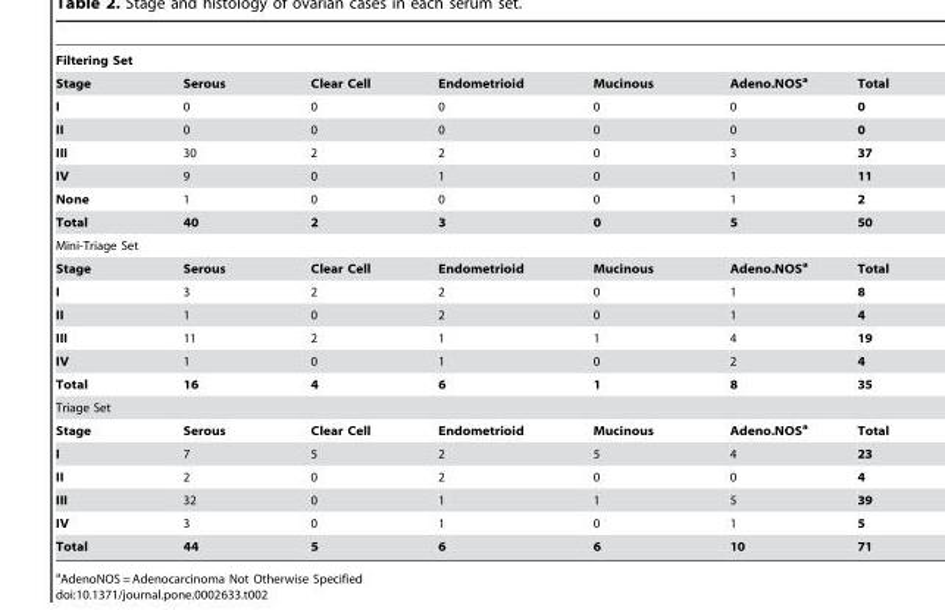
<table><tbody><tr><td colspan="7">Filtering Set</td></tr><tr><td>Stage</td><td>Serous</td><td>Clear Cell</td><td>Endometrioid</td><td>Mucinous</td><td>Adeno.NOSa</td><td>Total</td></tr><tr><td>I</td><td>0</td><td>0</td><td>0</td><td>0</td><td>0</td><td>0</td></tr><tr><td>II</td><td>0</td><td>0</td><td>0</td><td>0</td><td>0</td><td>0</td></tr><tr><td>III</td><td>30</td><td>2</td><td>2</td><td>0</td><td>3</td><td>37</td></tr><tr><td>IV</td><td>9</td><td>0</td><td>1</td><td>0</td><td>1</td><td>11</td></tr><tr><td>None</td><td>1</td><td>0</td><td>0</td><td>0</td><td>1</td><td>2</td></tr><tr><td>Total</td><td>40</td><td>2</td><td>3</td><td>0</td><td>5</td><td>50</td></tr><tr><td colspan="7">Mini-Triage Set</td></tr><tr><td>Stage</td><td>Serous</td><td>Clear Cell</td><td>Endometrioid</td><td>Mucinous</td><td>Adeno.NOSa</td><td>Total</td></tr><tr><td>I</td><td>3</td><td>2</td><td>2</td><td>0</td><td>1</td><td>8</td></tr><tr><td>II</td><td>1</td><td>0</td><td>2</td><td>0</td><td>1</td><td>4</td></tr><tr><td>III</td><td>11</td><td>2</td><td>1</td><td>1</td><td>4</td><td>19</td></tr><tr><td>IV</td><td>1</td><td>0</td><td>1</td><td>0</td><td>2</td><td>4</td></tr><tr><td>Total</td><td>16</td><td>4</td><td>6</td><td>1</td><td>8</td><td>35</td></tr><tr><td colspan="7">Triage Set</td></tr><tr><td>Stage</td><td>Serous</td><td>Clear Cell</td><td>Endometrioid</td><td>Mucinous</td><td>Adeno.NOSa</td><td>Total</td></tr><tr><td>I</td><td>7</td><td>5</td><td>2</td><td>5</td><td>4</td><td>23</td></tr><tr><td>II</td><td>2</td><td>0</td><td>2</td><td>0</td><td>0</td><td>4</td></tr><tr><td>III</td><td>32</td><td>0</td><td>1</td><td>1</td><td>5</td><td>39</td></tr><tr><td>IV</td><td>3</td><td>0</td><td>1</td><td>0</td><td>1</td><td>5</td></tr><tr><td>Total</td><td>44</td><td>5</td><td>6</td><td>6</td><td>10</td><td>71</td></tr></tbody></table>